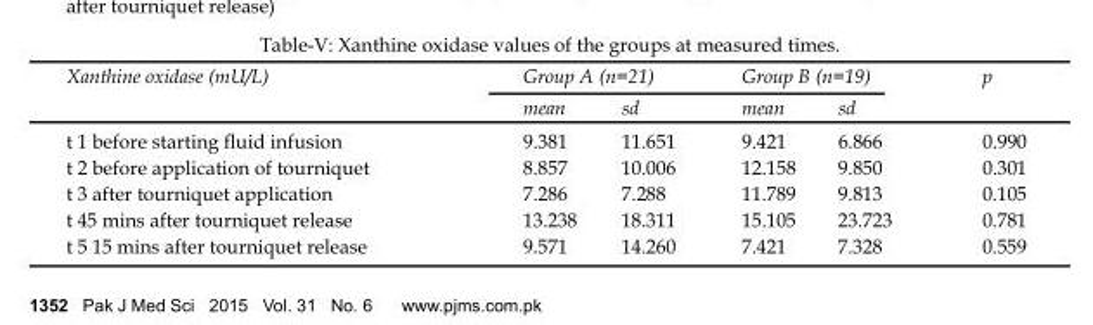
<table><thead><tr><td rowspan="2">Xanthine oxidase (mU/L)</td><td colspan="2">Group A (n=21)</td><td colspan="2">Group B (n=19)</td><td rowspan="2">p</td></tr><tr><td>mean</td><td>sd</td><td>mean</td><td>sd</td></tr></thead><tbody><tr><td>t 1 before starting fluid infusion</td><td>9.381</td><td>11.651</td><td>9.421</td><td>6.866</td><td>0.990</td></tr><tr><td>t 2 before application of tourniquet</td><td>8.857</td><td>10.006</td><td>12.158</td><td>9.850</td><td>0.301</td></tr><tr><td>t 3 after tourniquet application</td><td>7.286</td><td>7.288</td><td>11.789</td><td>9.813</td><td>0.105</td></tr><tr><td>t 45 mins after tourniquet release</td><td>13.238</td><td>18.311</td><td>15.105</td><td>23.723</td><td>0.781</td></tr><tr><td>t 5 15 mins after tourniquet release</td><td>9.571</td><td>14.260</td><td>7.421</td><td>7.328</td><td>0.559</td></tr></tbody></table>